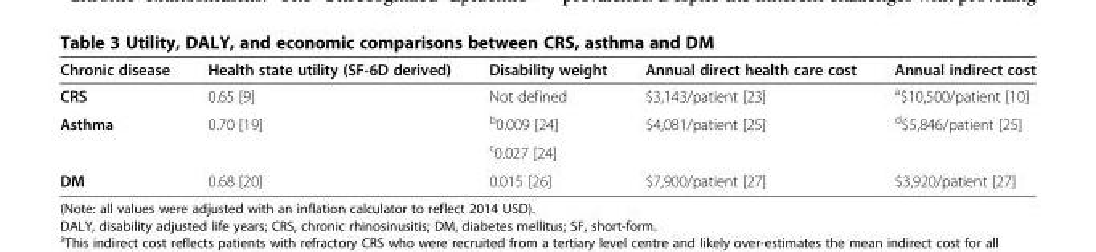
<table><thead><tr><td>Chronic disease</td><td>Health state utility (SF-6D derived)</td><td>Disability weight</td><td>Annual direct health care cost</td><td>Annual indirect cost</td></tr></thead><tbody><tr><td>CRS</td><td>0.65 [9]</td><td>Not defined</td><td>$3,143/patient [23]</td><td><sup>a</sup>$10,500/patient [10]</td></tr><tr><td rowspan="2">Asthma</td><td rowspan="2">0.70 [19]</td><td><sup>b</sup>0.009 [24]</td><td rowspan="2">$4,081/patient [25]</td><td rowspan="2"><sup>d</sup>$5,846/patient [25]</td></tr><tr><td><sup>c</sup>0.027 [24]</td></tr><tr><td>DM</td><td>0.68 [20]</td><td>0.015 [26]</td><td>$7,900/patient [27]</td><td>$3,920/patient [27]</td></tr></tbody></table>